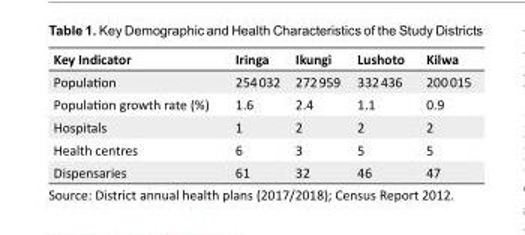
<table><tbody><tr><td>Key Indicator</td><td>Iringa</td><td>Ikungi</td><td>Lushoto</td><td>Kilwa</td></tr><tr><td>Population</td><td>254 032</td><td>272 959</td><td>332 436</td><td>200 015</td></tr><tr><td>Population growth rate (%)</td><td>1.6</td><td>2.4</td><td>1.1</td><td>0.9</td></tr><tr><td>Hospitals</td><td>1</td><td>2</td><td>2</td><td>2</td></tr><tr><td>Health centres</td><td>6</td><td>3</td><td>5</td><td>5</td></tr><tr><td>Dispensaries</td><td>61</td><td>32</td><td>46</td><td>47</td></tr></tbody></table>